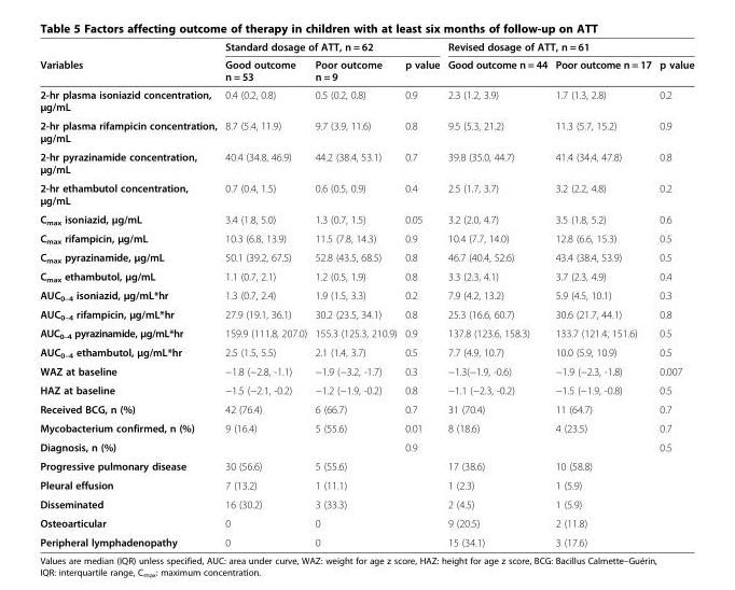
<table><thead><tr><td rowspan="2">Variables</td><td colspan="3">Standard dosage of ATT, n = 62</td><td colspan="3">Revised dosage of ATT, n = 61</td></tr><tr><td>Good outcome n = 53</td><td>Poor outcome n = 9</td><td>p value</td><td>Good outcome n = 44</td><td>Poor outcome n = 17</td><td>p value</td></tr></thead><tbody><tr><td>2-hr plasma isoniazid concentration, μg/mL</td><td>0.4 (0.2, 0.8)</td><td>0.5 (0.2, 0.8)</td><td>0.9</td><td>2.3 (1.2, 3.9)</td><td>1.7 (1.3, 2.8)</td><td>0.2</td></tr><tr><td>2-hr plasma rifampicin concentration, μg/mL</td><td>8.7 (5.4, 11.9)</td><td>9.7 (3.9, 11.6)</td><td>0.8</td><td>9.5 (5.3, 21.2)</td><td>11.3 (5.7, 15.2)</td><td>0.9</td></tr><tr><td>2-hr pyrazinamide concentration, μg/mL</td><td>40.4 (34.8, 46.9)</td><td>44.2 (38.4, 53.1)</td><td>0.7</td><td>39.8 (35.0, 44.7)</td><td>41.4 (34.4, 47.8)</td><td>0.8</td></tr><tr><td>2-hr ethambutol concentration, μg/mL</td><td>0.7 (0.4, 1.5)</td><td>0.6 (0.5, 0.9)</td><td>0.4</td><td>2.5 (1.7, 3.7)</td><td>3.2 (2.2, 4.8)</td><td>0.2</td></tr><tr><td>C<sub>max</sub> isoniazid, μg/mL</td><td>3.4 (1.8, 5.0)</td><td>1.3 (0.7, 1.5)</td><td>0.05</td><td>3.2 (2.0, 4.7)</td><td>3.5 (1.8, 5.2)</td><td>0.6</td></tr><tr><td>C<sub>max</sub> rifampicin, μg/mL</td><td>10.3 (6.8, 13.9)</td><td>11.5 (7.8, 14.3)</td><td>0.9</td><td>10.4 (7.7, 14.0)</td><td>12.8 (6.6, 15.3)</td><td>0.5</td></tr><tr><td>C<sub>max</sub> pyrazinamide, μg/mL</td><td>50.1 (39.2, 67.5)</td><td>52.8 (43.5, 68.5)</td><td>0.8</td><td>46.7 (40.4, 52.6)</td><td>43.4 (38.4, 53.9)</td><td>0.5</td></tr><tr><td>C<sub>max</sub> ethambutol, μg/mL</td><td>1.1 (0.7, 2.1)</td><td>1.2 (0.5, 1.9)</td><td>0.8</td><td>3.3 (2.3, 4.1)</td><td>3.7 (2.3, 4.9)</td><td>0.4</td></tr><tr><td>AUC<sub>0–4</sub> isoniazid, μg/mL*hr</td><td>1.3 (0.7, 2.4)</td><td>1.9 (1.5, 3.3)</td><td>0.2</td><td>7.9 (4.2, 13.2)</td><td>5.9 (4.5, 10.1)</td><td>0.3</td></tr><tr><td>AUC<sub>0–4</sub> rifampicin, μg/mL*hr</td><td>27.9 (19.1, 36.1)</td><td>30.2 (23.5, 34.1)</td><td>0.8</td><td>25.3 (16.6, 60.7)</td><td>30.6 (21.7, 44.1)</td><td>0.8</td></tr><tr><td>AUC<sub>0–4</sub> pyrazinamide, μg/mL*hr</td><td>159.9 (111.8, 207.0)</td><td>155.3 (125.3, 210.9)</td><td>0.9</td><td>137.8 (123.6, 158.3)</td><td>133.7 (121.4, 151.6)</td><td>0.5</td></tr><tr><td>AUC<sub>0–4</sub> ethambutol, μg/mL*hr</td><td>2.5 (1.5, 5.5)</td><td>2.1 (1.4, 3.7)</td><td>0.5</td><td>7.7 (4.9, 10.7)</td><td>10.0 (5.9, 10.9)</td><td>0.5</td></tr><tr><td>WAZ at baseline</td><td>−1.8 (−2.8, -1.1)</td><td>−1.9 (−3.2, -1.7)</td><td>0.3</td><td>−1.3(−1.9, -0.6)</td><td>−1.9 (−2.3, -1.8)</td><td>0.007</td></tr><tr><td>HAZ at baseline</td><td>−1.5 (−2.1, -0.2)</td><td>−1.2 (−1.9, -0.2)</td><td>0.8</td><td>−1.1 (−2.3, -0.2)</td><td>−1.5 (−1.9, -0.8)</td><td>0.5</td></tr><tr><td>Received BCG, n (%)</td><td>42 (76.4)</td><td>6 (66.7)</td><td>0.7</td><td>31 (70.4)</td><td>11 (64.7)</td><td>0.7</td></tr><tr><td>Mycobacterium confirmed, n (%)</td><td>9 (16.4)</td><td>5 (55.6)</td><td>0.01</td><td>8 (18.6)</td><td>4 (23.5)</td><td>0.7</td></tr><tr><td>Diagnosis, n (%)</td><td></td><td></td><td>0.9</td><td></td><td></td><td>0.5</td></tr><tr><td>Progressive pulmonary disease</td><td>30 (56.6)</td><td>5 (55.6)</td><td></td><td>17 (38.6)</td><td>10 (58.8)</td><td></td></tr><tr><td>Pleural effusion</td><td>7 (13.2)</td><td>1 (11.1)</td><td></td><td>1 (2.3)</td><td>1 (5.9)</td><td></td></tr><tr><td>Disseminated</td><td>16 (30.2)</td><td>3 (33.3)</td><td></td><td>2 (4.5)</td><td>1 (5.9)</td><td></td></tr><tr><td>Osteoarticular</td><td>0</td><td>0</td><td></td><td>9 (20.5)</td><td>2 (11.8)</td><td></td></tr><tr><td>Peripheral lymphadenopathy</td><td>0</td><td>0</td><td></td><td>15 (34.1)</td><td>3 (17.6)</td><td></td></tr></tbody></table>